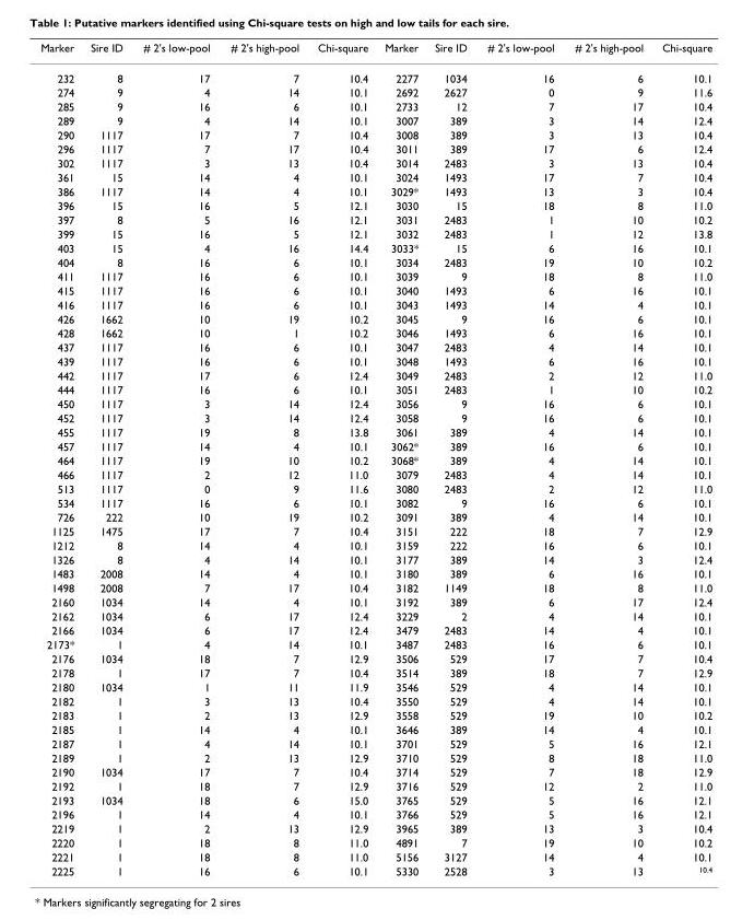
<table><thead><tr><td>Marker</td><td>Sire ID</td><td># 2&#x27;s low-pool</td><td># 2&#x27;s high-pool</td><td>Chi-square</td><td>Marker</td><td>Sire ID</td><td># 2&#x27;s low-pool</td><td># 2&#x27;s high-pool</td><td>Chi-square</td></tr></thead><tbody><tr><td>232</td><td>8</td><td>17</td><td>7</td><td>10.4</td><td>2277</td><td>1034</td><td>16</td><td>6</td><td>10.1</td></tr><tr><td>274</td><td>9</td><td>4</td><td>14</td><td>10.1</td><td>2692</td><td>2627</td><td>0</td><td>9</td><td>11.6</td></tr><tr><td>285</td><td>9</td><td>16</td><td>6</td><td>10.1</td><td>2733</td><td>12</td><td>7</td><td>17</td><td>10.4</td></tr><tr><td>289</td><td>9</td><td>4</td><td>14</td><td>10.1</td><td>3007</td><td>389</td><td>3</td><td>14</td><td>12.4</td></tr><tr><td>290</td><td>1117</td><td>17</td><td>7</td><td>10.4</td><td>3008</td><td>389</td><td>3</td><td>13</td><td>10.4</td></tr><tr><td>296</td><td>1117</td><td>7</td><td>17</td><td>10.4</td><td>3011</td><td>389</td><td>17</td><td>6</td><td>12.4</td></tr><tr><td>302</td><td>1117</td><td>3</td><td>13</td><td>10.4</td><td>3014</td><td>2483</td><td>3</td><td>13</td><td>10.4</td></tr><tr><td>361</td><td>15</td><td>14</td><td>4</td><td>10.1</td><td>3024</td><td>1493</td><td>17</td><td>7</td><td>10.4</td></tr><tr><td>386</td><td>1117</td><td>14</td><td>4</td><td>10.1</td><td>3029*</td><td>1493</td><td>13</td><td>3</td><td>10.4</td></tr><tr><td>396</td><td>15</td><td>16</td><td>5</td><td>12.1</td><td>3030</td><td>15</td><td>18</td><td>8</td><td>11.0</td></tr><tr><td>397</td><td>8</td><td>5</td><td>16</td><td>12.1</td><td>3031</td><td>2483</td><td>1</td><td>10</td><td>10.2</td></tr><tr><td>399</td><td>15</td><td>16</td><td>5</td><td>12.1</td><td>3032</td><td>2483</td><td>1</td><td>12</td><td>13.8</td></tr><tr><td>403</td><td>15</td><td>4</td><td>16</td><td>14.4</td><td>3033*</td><td>15</td><td>6</td><td>16</td><td>10.1</td></tr><tr><td>404</td><td>8</td><td>16</td><td>6</td><td>10.1</td><td>3034</td><td>2483</td><td>19</td><td>10</td><td>10.2</td></tr><tr><td>411</td><td>1117</td><td>16</td><td>6</td><td>10.1</td><td>3039</td><td>9</td><td>18</td><td>8</td><td>11.0</td></tr><tr><td>415</td><td>1117</td><td>16</td><td>6</td><td>10.1</td><td>3040</td><td>1493</td><td>6</td><td>16</td><td>10.1</td></tr><tr><td>416</td><td>1117</td><td>16</td><td>6</td><td>10.1</td><td>3043</td><td>1493</td><td>14</td><td>4</td><td>10.1</td></tr><tr><td>426</td><td>1662</td><td>10</td><td>19</td><td>10.2</td><td>3045</td><td>9</td><td>16</td><td>6</td><td>10.1</td></tr><tr><td>428</td><td>1662</td><td>10</td><td>1</td><td>10.2</td><td>3046</td><td>1493</td><td>6</td><td>16</td><td>10.1</td></tr><tr><td>437</td><td>1117</td><td>16</td><td>6</td><td>10.1</td><td>3047</td><td>2483</td><td>4</td><td>14</td><td>10.1</td></tr><tr><td>439</td><td>1117</td><td>16</td><td>6</td><td>10.1</td><td>3048</td><td>1493</td><td>6</td><td>16</td><td>10.1</td></tr><tr><td>442</td><td>1117</td><td>17</td><td>6</td><td>12.4</td><td>3049</td><td>2483</td><td>2</td><td>12</td><td>11.0</td></tr><tr><td>444</td><td>1117</td><td>16</td><td>6</td><td>10.1</td><td>3051</td><td>2483</td><td>1</td><td>10</td><td>10.2</td></tr><tr><td>450</td><td>1117</td><td>3</td><td>14</td><td>12.4</td><td>3056</td><td>9</td><td>16</td><td>6</td><td>10.1</td></tr><tr><td>452</td><td>1117</td><td>3</td><td>14</td><td>12.4</td><td>3058</td><td>9</td><td>16</td><td>6</td><td>10.1</td></tr><tr><td>455</td><td>1117</td><td>19</td><td>8</td><td>13.8</td><td>3061</td><td>389</td><td>4</td><td>14</td><td>10.1</td></tr><tr><td>457</td><td>1117</td><td>14</td><td>4</td><td>10.1</td><td>3062*</td><td>389</td><td>16</td><td>6</td><td>10.1</td></tr><tr><td>464</td><td>1117</td><td>19</td><td>10</td><td>10.2</td><td>3068*</td><td>389</td><td>4</td><td>14</td><td>10.1</td></tr><tr><td>466</td><td>1117</td><td>2</td><td>12</td><td>11.0</td><td>3079</td><td>2483</td><td>4</td><td>14</td><td>10.1</td></tr><tr><td>513</td><td>1117</td><td>0</td><td>9</td><td>11.6</td><td>3080</td><td>2483</td><td>2</td><td>12</td><td>11.0</td></tr><tr><td>534</td><td>1117</td><td>16</td><td>6</td><td>10.1</td><td>3082</td><td>9</td><td>16</td><td>6</td><td>10.1</td></tr><tr><td>726</td><td>222</td><td>10</td><td>19</td><td>10.2</td><td>3091</td><td>389</td><td>4</td><td>14</td><td>10.1</td></tr><tr><td>1125</td><td>1475</td><td>17</td><td>7</td><td>10.4</td><td>3151</td><td>222</td><td>18</td><td>7</td><td>12.9</td></tr><tr><td>1212</td><td>8</td><td>14</td><td>4</td><td>10.1</td><td>3159</td><td>222</td><td>16</td><td>6</td><td>10.1</td></tr><tr><td>1326</td><td>8</td><td>4</td><td>14</td><td>10.1</td><td>3177</td><td>389</td><td>14</td><td>3</td><td>12.4</td></tr><tr><td>1483</td><td>2008</td><td>14</td><td>4</td><td>10.1</td><td>3180</td><td>389</td><td>6</td><td>16</td><td>10.1</td></tr><tr><td>1498</td><td>2008</td><td>7</td><td>17</td><td>10.4</td><td>3182</td><td>1149</td><td>18</td><td>8</td><td>11.0</td></tr><tr><td>2160</td><td>1034</td><td>14</td><td>4</td><td>10.1</td><td>3192</td><td>389</td><td>6</td><td>17</td><td>12.4</td></tr><tr><td>2162</td><td>1034</td><td>6</td><td>17</td><td>12.4</td><td>3229</td><td>2</td><td>4</td><td>14</td><td>10.1</td></tr><tr><td>2166</td><td>1034</td><td>6</td><td>17</td><td>12.4</td><td>3479</td><td>2483</td><td>14</td><td>4</td><td>10.1</td></tr><tr><td>2173*</td><td>1</td><td>4</td><td>14</td><td>10.1</td><td>3487</td><td>2483</td><td>16</td><td>6</td><td>10.1</td></tr><tr><td>2176</td><td>1034</td><td>18</td><td>7</td><td>12.9</td><td>3506</td><td>529</td><td>17</td><td>7</td><td>10.4</td></tr><tr><td>2178</td><td>1</td><td>17</td><td>7</td><td>10.4</td><td>3514</td><td>389</td><td>18</td><td>7</td><td>12.9</td></tr><tr><td>2180</td><td>1034</td><td>1</td><td>11</td><td>11.9</td><td>3546</td><td>529</td><td>4</td><td>14</td><td>10.1</td></tr><tr><td>2182</td><td>1</td><td>3</td><td>13</td><td>10.4</td><td>3550</td><td>529</td><td>4</td><td>14</td><td>10.1</td></tr><tr><td>2183</td><td>1</td><td>2</td><td>13</td><td>12.9</td><td>3558</td><td>529</td><td>19</td><td>10</td><td>10.2</td></tr><tr><td>2185</td><td>1</td><td>14</td><td>4</td><td>10.1</td><td>3646</td><td>389</td><td>14</td><td>4</td><td>10.1</td></tr><tr><td>2187</td><td>1</td><td>4</td><td>14</td><td>10.1</td><td>3701</td><td>529</td><td>5</td><td>16</td><td>12.1</td></tr><tr><td>2189</td><td>1</td><td>2</td><td>13</td><td>12.9</td><td>3710</td><td>529</td><td>8</td><td>18</td><td>11.0</td></tr><tr><td>2190</td><td>1034</td><td>17</td><td>7</td><td>10.4</td><td>3714</td><td>529</td><td>7</td><td>18</td><td>12.9</td></tr><tr><td>2192</td><td>1</td><td>18</td><td>7</td><td>12.9</td><td>3716</td><td>529</td><td>12</td><td>2</td><td>11.0</td></tr><tr><td>2193</td><td>1034</td><td>18</td><td>6</td><td>15.0</td><td>3765</td><td>529</td><td>5</td><td>16</td><td>12.1</td></tr><tr><td>2196</td><td>1</td><td>14</td><td>4</td><td>10.1</td><td>3766</td><td>529</td><td>5</td><td>16</td><td>12.1</td></tr><tr><td>2219</td><td>1</td><td>2</td><td>13</td><td>12.9</td><td>3965</td><td>389</td><td>13</td><td>3</td><td>10.4</td></tr><tr><td>2220</td><td>1</td><td>18</td><td>8</td><td>11.0</td><td>4891</td><td>7</td><td>19</td><td>10</td><td>10.2</td></tr><tr><td>2221</td><td>1</td><td>18</td><td>8</td><td>11.0</td><td>5156</td><td>3127</td><td>14</td><td>4</td><td>10.1</td></tr><tr><td>2225</td><td>1</td><td>16</td><td>6</td><td>10.1</td><td>5330</td><td>2528</td><td>3</td><td>13</td><td><sup>10.4</sup></td></tr></tbody></table>